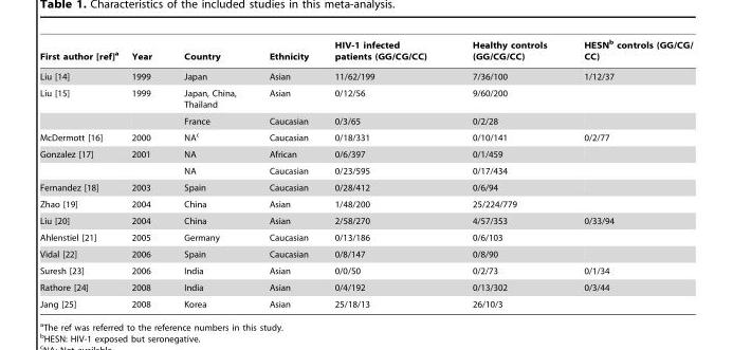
<table><thead><tr><td>First author [ref]<sup>a</sup></td><td>Year</td><td>Country</td><td>Ethnicity</td><td>HIV-1 infected patients (GG/CG/CC)</td><td>Healthy controls (GG/CG/CC)</td><td>HESN<sup>b</sup> controls (GG/CG/ CC)</td></tr></thead><tbody><tr><td>Liu [14]</td><td>1999</td><td>Japan</td><td>Asian</td><td>11/62/199</td><td>7/36/100</td><td>1/12/37</td></tr><tr><td rowspan="2">Liu [15]</td><td>1999</td><td>Japan, China, Thailand</td><td>Asian</td><td>0/12/56</td><td>9/60/200</td><td></td></tr><tr><td></td><td>France</td><td>Caucasian</td><td>0/3/65</td><td>0/2/28</td><td></td></tr><tr><td>McDermott [16]</td><td>2000</td><td>NA<sup>c</sup></td><td>Caucasian</td><td>0/18/331</td><td>0/10/141</td><td>0/2/77</td></tr><tr><td rowspan="2">Gonzalez [17]</td><td>2001</td><td>NA</td><td>African</td><td>0/6/397</td><td>0/1/459</td><td></td></tr><tr><td></td><td>NA</td><td>Caucasian</td><td>0/23/595</td><td>0/17/434</td><td></td></tr><tr><td>Fernandez [18]</td><td>2003</td><td>Spain</td><td>Caucasian</td><td>0/28/412</td><td>0/6/94</td><td></td></tr><tr><td>Zhao [19]</td><td>2004</td><td>China</td><td>Asian</td><td>1/48/200</td><td>25/224/779</td><td></td></tr><tr><td>Liu [20]</td><td>2004</td><td>China</td><td>Asian</td><td>2/58/270</td><td>4/57/353</td><td>0/33/94</td></tr><tr><td>Ahlenstiel [21]</td><td>2005</td><td>Germany</td><td>Caucasian</td><td>0/13/186</td><td>0/6/103</td><td></td></tr><tr><td>Vidal [22]</td><td>2006</td><td>Spain</td><td>Caucasian</td><td>0/8/147</td><td>0/8/90</td><td></td></tr><tr><td>Suresh [23]</td><td>2006</td><td>India</td><td>Asian</td><td>0/0/50</td><td>0/2/73</td><td>0/1/34</td></tr><tr><td>Rathore [24]</td><td>2008</td><td>India</td><td>Asian</td><td>0/4/192</td><td>0/13/302</td><td>0/3/44</td></tr><tr><td>Jang [25]</td><td>2008</td><td>Korea</td><td>Asian</td><td>25/18/13</td><td>26/10/3</td><td></td></tr></tbody></table>